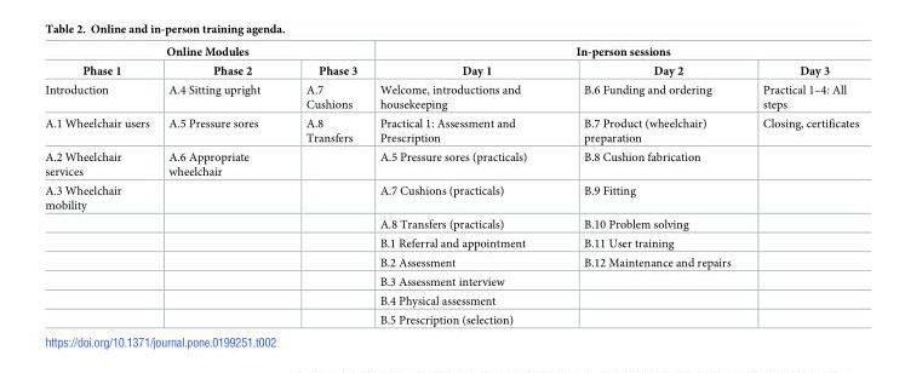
<table><thead><tr><td colspan="3">Online Modules</td><td colspan="3">In-person sessions</td></tr><tr><td>Phase 1</td><td>Phase 2</td><td>Phase 3</td><td>Day 1</td><td>Day 2</td><td>Day 3</td></tr></thead><tbody><tr><td>Introduction</td><td>A.4 Sitting upright</td><td>A.7 Cushions</td><td>Welcome, introductions and housekeeping</td><td>B.6 Funding and ordering</td><td>Practical 1–4: All steps</td></tr><tr><td>A.1 Wheelchair users</td><td>A.5 Pressure sores</td><td>A.8 Transfers</td><td>Practical 1: Assessment and Prescription</td><td>B.7 Product (wheelchair) preparation</td><td>Closing, certificates</td></tr><tr><td>A.2 Wheelchair services</td><td>A.6 Appropriate wheelchair</td><td></td><td>A.5 Pressure sores (practicals)</td><td>B.8 Cushion fabrication</td><td></td></tr><tr><td rowspan="7">A.3 Wheelchair mobility</td><td></td><td></td><td>A.7 Cushions (practicals)</td><td>B.9 Fitting</td><td></td></tr><tr><td></td><td></td><td>A.8 Transfers (practicals)</td><td>B.10 Problem solving</td><td></td></tr><tr><td></td><td></td><td>B.1 Referral and appointment</td><td>B.11 User training</td><td></td></tr><tr><td></td><td></td><td>B.2 Assessment</td><td>B.12 Maintenance and repairs</td><td></td></tr><tr><td></td><td></td><td>B.3 Assessment interview</td><td></td><td></td></tr><tr><td></td><td></td><td>B.4 Physical assessment</td><td></td><td></td></tr><tr><td></td><td></td><td>B.5 Prescription (selection)</td><td></td><td></td></tr></tbody></table>